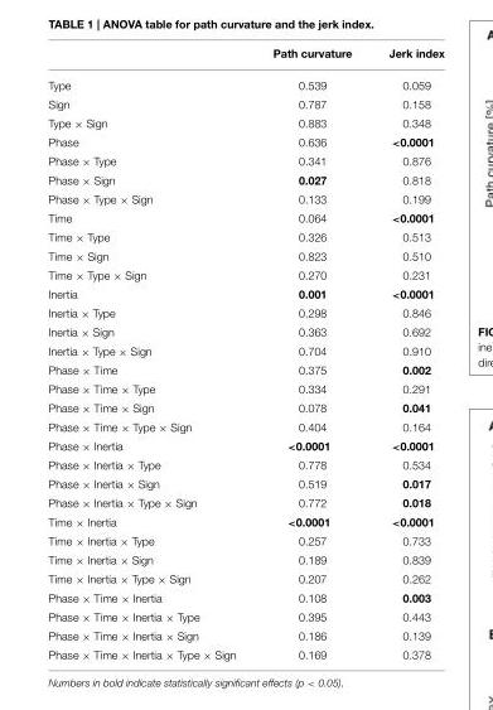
<table><thead><tr><td></td><td>Path curvature</td><td>Jerk index</td></tr></thead><tbody><tr><td>Type</td><td>0.539</td><td>0.059</td></tr><tr><td>Sign</td><td>0.787</td><td>0.158</td></tr><tr><td>Type × Sign</td><td>0.883</td><td>0.348</td></tr><tr><td>Phase</td><td>0.636</td><td>&lt;0.0001</td></tr><tr><td>Phase × Type</td><td>0.341</td><td>0.876</td></tr><tr><td>Phase × Sign</td><td>0.027</td><td>0.818</td></tr><tr><td>Phase × Type × Sign</td><td>0.133</td><td>0.199</td></tr><tr><td>Time</td><td>0.064</td><td>&lt;0.0001</td></tr><tr><td>Time × Type</td><td>0.326</td><td>0.513</td></tr><tr><td>Time × Sign</td><td>0.823</td><td>0.510</td></tr><tr><td>Time × Type × Sign</td><td>0.270</td><td>0.231</td></tr><tr><td>Inertia</td><td>0.001</td><td>&lt;0.0001</td></tr><tr><td>Inertia × Type</td><td>0.298</td><td>0.846</td></tr><tr><td>Inertia × Sign</td><td>0.363</td><td>0.692</td></tr><tr><td>Inertia × Type × Sign</td><td>0.704</td><td>0.910</td></tr><tr><td>Phase × Time</td><td>0.375</td><td>0.002</td></tr><tr><td>Phase × Time × Type</td><td>0.334</td><td>0.291</td></tr><tr><td>Phase × Time × Sign</td><td>0.078</td><td>0.041</td></tr><tr><td>Phase × Time × Type × Sign</td><td>0.404</td><td>0.164</td></tr><tr><td>Phase × Inertia</td><td>&lt;0.0001</td><td>&lt;0.0001</td></tr><tr><td>Phase × Inertia × Type</td><td>0.778</td><td>0.534</td></tr><tr><td>Phase × Inertia × Sign</td><td>0.519</td><td>0.017</td></tr><tr><td>Phase × Inertia × Type × Sign</td><td>0.772</td><td>0.018</td></tr><tr><td>Time × Inertia</td><td>&lt;0.0001</td><td>&lt;0.0001</td></tr><tr><td>Time × Inertia × Type</td><td>0.257</td><td>0.733</td></tr><tr><td>Time × Inertia × Sign</td><td>0.189</td><td>0.839</td></tr><tr><td>Time × Inertia × Type × Sign</td><td>0.207</td><td>0.262</td></tr><tr><td>Phase × Time × Inertia</td><td>0.108</td><td>0.003</td></tr><tr><td>Phase × Time × Inertia × Type</td><td>0.395</td><td>0.443</td></tr><tr><td>Phase × Time × Inertia × Sign</td><td>0.186</td><td>0.139</td></tr><tr><td>Phase × Time × Inertia × Type × Sign</td><td>0.169</td><td>0.378</td></tr></tbody></table>